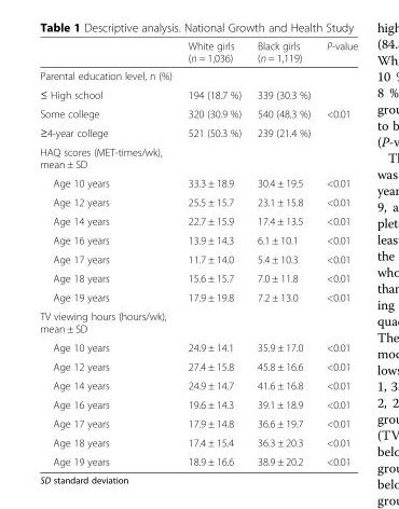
<table><thead><tr><td></td><td>White girls (n = 1,036)</td><td>Black girls (n = 1,119)</td><td>P-value</td></tr></thead><tbody><tr><td colspan="4">Parental education level, n (%)</td></tr><tr><td>≤ High school</td><td>194 (18.7 %)</td><td>339 (30.3 %)</td><td></td></tr><tr><td>Some college</td><td>320 (30.9 %)</td><td>540 (48.3 %)</td><td>&lt;0.01</td></tr><tr><td>≥4-year college</td><td>521 (50.3 %)</td><td>239 (21.4 %)</td><td></td></tr><tr><td colspan="4">HAQ scores (MET-times/wk), mean ± SD</td></tr><tr><td>Age 10 years</td><td>33.3 ± 18.9</td><td>30.4 ± 19.5</td><td>&lt;0.01</td></tr><tr><td>Age 12 years</td><td>25.5 ± 15.7</td><td>23.1 ± 15.8</td><td>&lt;0.01</td></tr><tr><td>Age 14 years</td><td>22.7 ± 15.9</td><td>17.4 ± 13.5</td><td>&lt;0.01</td></tr><tr><td>Age 16 years</td><td>13.9 ± 14.3</td><td>6.1 ± 10.1</td><td>&lt;0.01</td></tr><tr><td>Age 17 years</td><td>11.7 ± 14.0</td><td>5.4 ± 10.3</td><td>&lt;0.01</td></tr><tr><td>Age 18 years</td><td>15.6 ± 15.7</td><td>7.0 ± 11.8</td><td>&lt;0.01</td></tr><tr><td>Age 19 years</td><td>17.9 ± 19.8</td><td>7.2 ± 13.0</td><td>&lt;0.01</td></tr><tr><td colspan="4">TV viewing hours (hours/wk), mean ± SD</td></tr><tr><td>Age 10 years</td><td>24.9 ± 14.1</td><td>35.9 ± 17.0</td><td>&lt;0.01</td></tr><tr><td>Age 12 years</td><td>27.4 ± 15.8</td><td>45.8 ± 16.6</td><td>&lt;0.01</td></tr><tr><td>Age 14 years</td><td>24.9 ± 14.7</td><td>41.6 ± 16.8</td><td>&lt;0.01</td></tr><tr><td>Age 16 years</td><td>19.6 ± 14.3</td><td>39.1 ± 18.9</td><td>&lt;0.01</td></tr><tr><td>Age 17 years</td><td>17.9 ± 14.8</td><td>36.6 ± 19.7</td><td>&lt;0.01</td></tr><tr><td>Age 18 years</td><td>17.4 ± 15.4</td><td>36.3 ± 20.3</td><td>&lt;0.01</td></tr><tr><td>Age 19 years</td><td>18.9 ± 16.6</td><td>38.9 ± 20.2</td><td>&lt;0.01</td></tr></tbody></table>